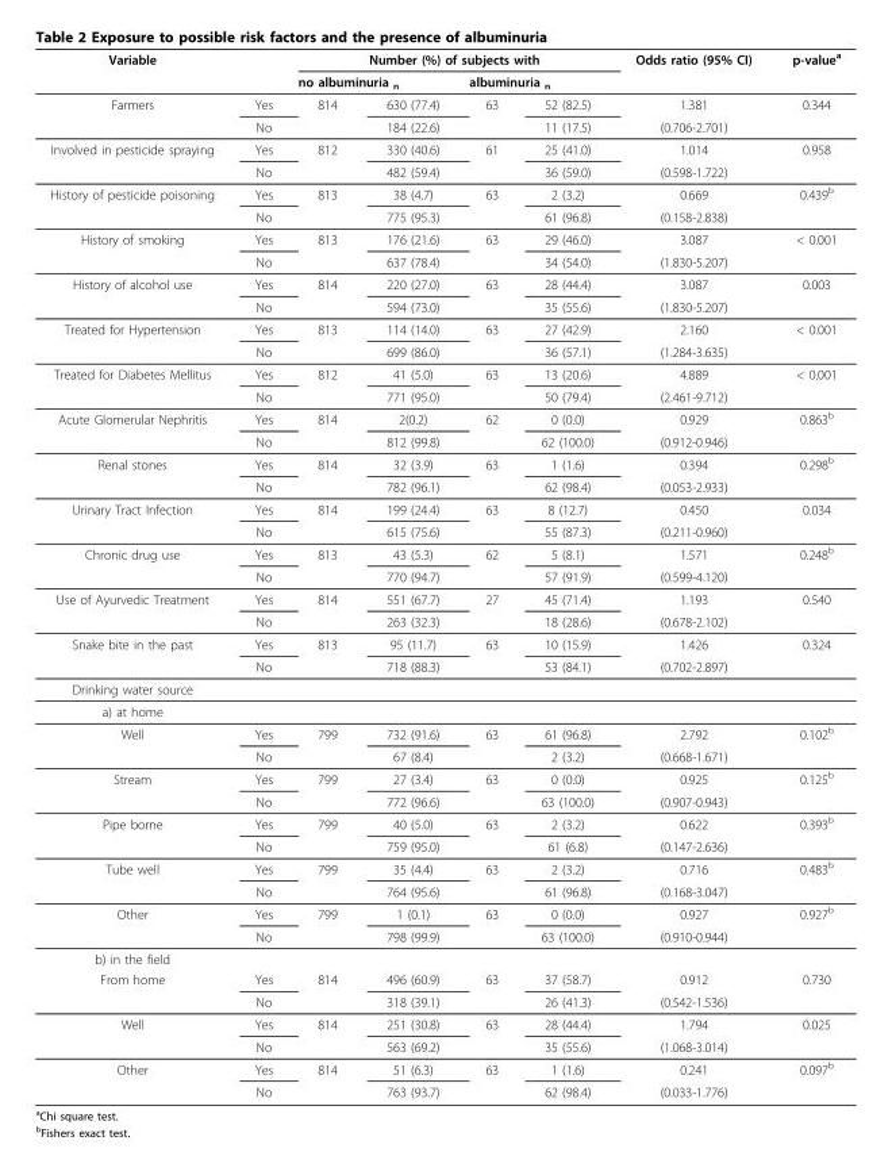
<table><thead><tr><td rowspan="3">Variable Farmers</td><td rowspan="3">Yes</td><td colspan="4">Number (%) of subjects with</td><td rowspan="3">Odds ratio (95% CI) 1.381</td><td rowspan="3">p-valuea 0.344</td></tr><tr><td colspan="2">no albuminuria n</td><td colspan="2">albuminuria n</td></tr><tr><td>814</td><td>630 (77.4)</td><td>63</td><td>52 (82.5)</td></tr></thead><tbody><tr><td></td><td>No</td><td></td><td>184 (22.6)</td><td></td><td>11 (17.5)</td><td>(0.706-2.701)</td><td></td></tr><tr><td rowspan="2">Involved in pesticide spraying</td><td>Yes</td><td>812</td><td>330 (40.6)</td><td>61</td><td>25 (41.0)</td><td>1.014</td><td>0.958</td></tr><tr><td>No</td><td></td><td>482 (59.4)</td><td></td><td>36 (59.0)</td><td>(0.598-1.722)</td><td></td></tr><tr><td rowspan="2">History of pesticide poisoning</td><td>Yes</td><td>813</td><td>38 (4.7)</td><td>63</td><td>2 (3.2)</td><td>0.669</td><td>0.439<sup>b</sup></td></tr><tr><td>No</td><td></td><td>775 (95.3)</td><td></td><td>61 (96.8)</td><td>(0.158-2.838)</td><td></td></tr><tr><td rowspan="2">History of smoking</td><td>Yes</td><td>813</td><td>176 (21.6)</td><td>63</td><td>29 (46.0)</td><td>3.087</td><td>&lt; 0.001</td></tr><tr><td>No</td><td></td><td>637 (78.4)</td><td></td><td>34 (54.0)</td><td>(1.830-5.207)</td><td></td></tr><tr><td rowspan="2">History of alcohol use</td><td>Yes</td><td>814</td><td>220 (27.0)</td><td>63</td><td>28 (44.4)</td><td>3.087</td><td>0.003</td></tr><tr><td>No</td><td></td><td>594 (73.0)</td><td></td><td>35 (55.6)</td><td>(1.830-5.207)</td><td></td></tr><tr><td rowspan="2">Treated for Hypertension</td><td>Yes</td><td>813</td><td>114 (14.0)</td><td>63</td><td>27 (42.9)</td><td>2.160</td><td>&lt; 0.001</td></tr><tr><td>No</td><td></td><td>699 (86.0)</td><td></td><td>36 (57.1)</td><td>(1.284-3.635)</td><td></td></tr><tr><td rowspan="2">Treated for Diabetes Mellitus</td><td>Yes</td><td>812</td><td>41 (5.0)</td><td>63</td><td>13 (20.6)</td><td>4.889</td><td>&lt; 0.001</td></tr><tr><td>No</td><td></td><td>771 (95.0)</td><td></td><td>50 (79.4)</td><td>(2.461-9.712)</td><td></td></tr><tr><td rowspan="2">Acute Glomerular Nephritis</td><td>Yes</td><td>814</td><td>2(0.2)</td><td>62</td><td>0 (0.0)</td><td>0.929</td><td>0.863<sup>b</sup></td></tr><tr><td>No</td><td></td><td>812 (99.8)</td><td></td><td>62 (100.0)</td><td>(0.912-0.946)</td><td></td></tr><tr><td rowspan="2">Renal stones</td><td>Yes</td><td>814</td><td>32 (3.9)</td><td>63</td><td>1 (1.6)</td><td>0.394</td><td>0.298<sup>b</sup></td></tr><tr><td>No</td><td></td><td>782 (96.1)</td><td></td><td>62 (98.4)</td><td>(0.053-2.933)</td><td></td></tr><tr><td rowspan="2">Urinary Tract Infection</td><td>Yes</td><td>814</td><td>199 (24.4)</td><td>63</td><td>8 (12.7)</td><td>0.450</td><td>0.034</td></tr><tr><td>No</td><td></td><td>615 (75.6)</td><td></td><td>55 (87.3)</td><td>(0.211-0.960)</td><td></td></tr><tr><td rowspan="2">Chronic drug use</td><td>Yes</td><td>813</td><td>43 (5.3)</td><td>62</td><td>5 (8.1)</td><td>1.571</td><td>0.248<sup>b</sup></td></tr><tr><td>No</td><td></td><td>770 (94.7)</td><td></td><td>57 (91.9)</td><td>(0.599-4.120)</td><td></td></tr><tr><td rowspan="2">Use of Ayurvedic Treatment</td><td>Yes</td><td>814</td><td>551 (67.7)</td><td>27</td><td>45 (71.4)</td><td>1.193</td><td>0.540</td></tr><tr><td>No</td><td></td><td>263 (32.3)</td><td></td><td>18 (28.6)</td><td>(0.678-2.102)</td><td></td></tr><tr><td rowspan="2">Snake bite in the past</td><td>Yes</td><td>813</td><td>95 (11.7)</td><td>63</td><td>10 (15.9)</td><td>1.426</td><td>0.324</td></tr><tr><td>No</td><td></td><td>718 (88.3)</td><td></td><td>53 (84.1)</td><td>(0.702-2.897)</td><td></td></tr><tr><td colspan="8">Drinking water source</td></tr><tr><td colspan="8">a) at home</td></tr><tr><td rowspan="2">Well</td><td>Yes</td><td>799</td><td>732 (91.6)</td><td>63</td><td>61 (96.8)</td><td>2.792</td><td>0.102<sup>b</sup></td></tr><tr><td>No</td><td></td><td>67 (8.4)</td><td></td><td>2 (3.2)</td><td>(0.668-1.671)</td><td></td></tr><tr><td rowspan="2">Stream</td><td>Yes</td><td>799</td><td>27 (3.4)</td><td>63</td><td>0 (0.0)</td><td>0.925</td><td>0.125<sup>b</sup></td></tr><tr><td>No</td><td></td><td>772 (96.6)</td><td></td><td>63 (100.0)</td><td>(0.907-0.943)</td><td></td></tr><tr><td rowspan="2">Pipe borne</td><td>Yes</td><td>799</td><td>40 (5.0)</td><td>63</td><td>2 (3.2)</td><td>0.622</td><td>0.393<sup>b</sup></td></tr><tr><td>No</td><td></td><td>759 (95.0)</td><td></td><td>61 (6.8)</td><td>(0.147-2.636)</td><td></td></tr><tr><td rowspan="2">Tube well</td><td>Yes</td><td>799</td><td>35 (4.4)</td><td>63</td><td>2 (3.2)</td><td>0.716</td><td>0.483<sup>b</sup></td></tr><tr><td>No</td><td></td><td>764 (95.6)</td><td></td><td>61 (96.8)</td><td>(0.168-3.047)</td><td></td></tr><tr><td rowspan="2">Other</td><td>Yes</td><td>799</td><td>1 (0.1)</td><td>63</td><td>0 (0.0)</td><td>0.927</td><td>0.927<sup>b</sup></td></tr><tr><td>No</td><td></td><td>798 (99.9)</td><td></td><td>63 (100.0)</td><td>(0.910-0.944)</td><td></td></tr><tr><td colspan="8">b) in the field</td></tr><tr><td rowspan="2">From home</td><td>Yes</td><td>814</td><td>496 (60.9)</td><td>63</td><td>37 (58.7)</td><td>0.912</td><td>0.730</td></tr><tr><td>No</td><td></td><td>318 (39.1)</td><td></td><td>26 (41.3)</td><td>(0.542-1.536)</td><td></td></tr><tr><td rowspan="2">Well</td><td>Yes</td><td>814</td><td>251 (30.8)</td><td>63</td><td>28 (44.4)</td><td>1.794</td><td>0.025</td></tr><tr><td>No</td><td></td><td>563 (69.2)</td><td></td><td>35 (55.6)</td><td>(1.068-3.014)</td><td></td></tr><tr><td rowspan="2">Other</td><td>Yes</td><td>814</td><td>51 (6.3)</td><td>63</td><td>1 (1.6)</td><td>0.241</td><td>0.097<sup>b</sup></td></tr><tr><td>No</td><td></td><td>763 (93.7)</td><td></td><td>62 (98.4)</td><td>(0.033-1.776)</td><td></td></tr></tbody></table>